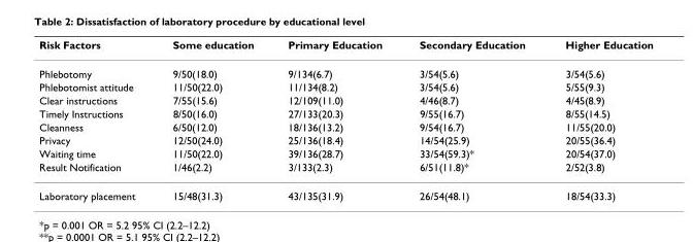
<table><thead><tr><td>Risk Factors</td><td>Some education</td><td>Primary Education</td><td>Secondary Education</td><td>Higher Education</td></tr></thead><tbody><tr><td>Phlebotomy</td><td>9/50(18.0)</td><td>9/134(6.7)</td><td>3/54(5.6)</td><td>3/54(5.6)</td></tr><tr><td>Phlebotomist attitude</td><td>11/50(22.0)</td><td>11/134(8.2)</td><td>3/54(5.6)</td><td>5/55(9.3)</td></tr><tr><td>Clear instructions</td><td>7/55(15.6)</td><td>12/109(11.0)</td><td>4/46(8.7)</td><td>4/45(8.9)</td></tr><tr><td>Timely Instructions</td><td>8/50(16.0)</td><td>27/133(20.3)</td><td>9/55(16.7)</td><td>8/55(14.5)</td></tr><tr><td>Cleanness</td><td>6/50(12.0)</td><td>18/136(13.2)</td><td>9/54(16.7)</td><td>11/55(20.0)</td></tr><tr><td>Privacy</td><td>12/50(24.0)</td><td>25/136(18.4)</td><td>14/54(25.9)</td><td>20/55(36.4)</td></tr><tr><td>Waiting time</td><td>11/50(22.0)</td><td>39/136(28.7)</td><td>33/54(59.3)*</td><td>20/54(37.0)</td></tr><tr><td>Result Notification</td><td>1/46(2.2)</td><td>3/133(2.3)</td><td>6/51(11.8)*</td><td>2/52(3.8)</td></tr><tr><td>Laboratory placement</td><td>15/48(31.3)</td><td>43/135(31.9)</td><td>26/54(48.1)</td><td>18/54(33.3)</td></tr></tbody></table>